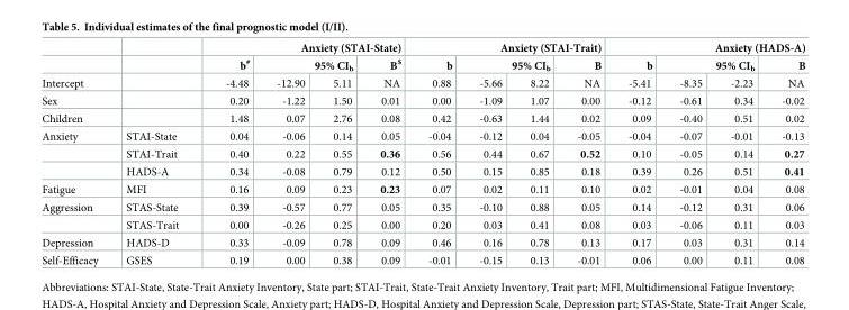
<table><thead><tr><td rowspan="3">Intercept</td><td rowspan="3"></td><td colspan="4">Anxiety (STAI-State)</td><td colspan="4">Anxiety (STAI-Trait)</td><td colspan="4">Anxiety (HADS-A)</td></tr><tr><td rowspan="2">b<sup>#</sup> -4.48</td><td colspan="2">95% CI<sub>b</sub></td><td rowspan="2">B<sup>$</sup> NA</td><td rowspan="2">b 0.88</td><td colspan="2">95% CI<sub>b</sub></td><td rowspan="2">B NA</td><td rowspan="2">b -5.41</td><td colspan="2">95% CI<sub>b</sub></td><td rowspan="2">B NA</td></tr><tr><td>-12.90</td><td>5.11</td><td>-5.66</td><td>8.22</td><td>-8.35</td><td>-2.23</td></tr></thead><tbody><tr><td>Sex</td><td></td><td>0.20</td><td>-1.22</td><td>1.50</td><td>0.01</td><td>0.00</td><td>-1.09</td><td>1.07</td><td>0.00</td><td>-0.12</td><td>-0.61</td><td>0.34</td><td>-0.02</td></tr><tr><td>Children</td><td></td><td>1.48</td><td>0.07</td><td>2.76</td><td>0.08</td><td>0.42</td><td>-0.63</td><td>1.44</td><td>0.02</td><td>0.09</td><td>-0.40</td><td>0.51</td><td>0.02</td></tr><tr><td rowspan="3">Anxiety</td><td>STAI-State</td><td>0.04</td><td>-0.06</td><td>0.14</td><td>0.05</td><td>-0.04</td><td>-0.12</td><td>0.04</td><td>-0.05</td><td>-0.04</td><td>-0.07</td><td>-0.01</td><td>-0.13</td></tr><tr><td>STAI-Trait</td><td>0.40</td><td>0.22</td><td>0.55</td><td>0.36</td><td>0.56</td><td>0.44</td><td>0.67</td><td>0.52</td><td>0.10</td><td>-0.05</td><td>0.14</td><td>0.27</td></tr><tr><td>HADS-A</td><td>0.34</td><td>-0.08</td><td>0.79</td><td>0.12</td><td>0.50</td><td>0.15</td><td>0.85</td><td>0.18</td><td>0.39</td><td>0.26</td><td>0.51</td><td>0.41</td></tr><tr><td>Fatigue</td><td>MFI</td><td>0.16</td><td>0.09</td><td>0.23</td><td>0.23</td><td>0.07</td><td>0.02</td><td>0.11</td><td>0.10</td><td>0.02</td><td>-0.01</td><td>0.04</td><td>0.08</td></tr><tr><td rowspan="2">Aggression</td><td>STAS-State</td><td>0.39</td><td>-0.57</td><td>0.77</td><td>0.05</td><td>0.35</td><td>-0.10</td><td>0.88</td><td>0.05</td><td>0.14</td><td>-0.12</td><td>0.31</td><td>0.06</td></tr><tr><td>STAS-Trait</td><td>0.00</td><td>-0.26</td><td>0.25</td><td>0.00</td><td>0.20</td><td>0.03</td><td>0.41</td><td>0.08</td><td>0.03</td><td>-0.06</td><td>0.11</td><td>0.03</td></tr><tr><td>Depression</td><td>HADS-D</td><td>0.33</td><td>-0.09</td><td>0.78</td><td>0.09</td><td>0.46</td><td>0.16</td><td>0.78</td><td>0.13</td><td>0.17</td><td>0.03</td><td>0.31</td><td>0.14</td></tr><tr><td>Self-Efficacy</td><td>GSES</td><td>0.19</td><td>0.00</td><td>0.38</td><td>0.09</td><td>-0.01</td><td>-0.15</td><td>0.13</td><td>-0.01</td><td>0.06</td><td>0.00</td><td>0.11</td><td>0.08</td></tr></tbody></table>